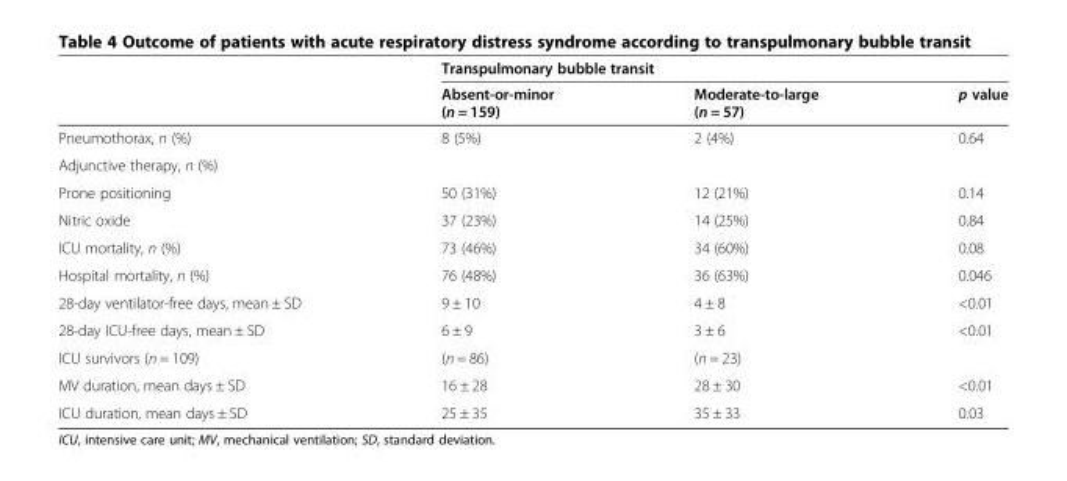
<table><thead><tr><td rowspan="2"></td><td colspan="3">Transpulmonary bubble transit</td></tr><tr><td>Absent-or-minor (n = 159)</td><td>Moderate-to-large (n = 57)</td><td>p value</td></tr></thead><tbody><tr><td>Pneumothorax, n (%)</td><td>8 (5%)</td><td>2 (4%)</td><td>0.64</td></tr><tr><td colspan="4">Adjunctive therapy, n (%)</td></tr><tr><td>Prone positioning</td><td>50 (31%)</td><td>12 (21%)</td><td>0.14</td></tr><tr><td>Nitric oxide</td><td>37 (23%)</td><td>14 (25%)</td><td>0.84</td></tr><tr><td>ICU mortality, n (%)</td><td>73 (46%)</td><td>34 (60%)</td><td>0.08</td></tr><tr><td>Hospital mortality, n (%)</td><td>76 (48%)</td><td>36 (63%)</td><td>0.046</td></tr><tr><td>28-day ventilator-free days, mean ± SD</td><td>9 ± 10</td><td>4 ± 8</td><td>&lt;0.01</td></tr><tr><td>28-day ICU-free days, mean ± SD</td><td>6 ± 9</td><td>3 ± 6</td><td>&lt;0.01</td></tr><tr><td>ICU survivors (n = 109)</td><td>(n = 86)</td><td>(n = 23)</td><td></td></tr><tr><td>MV duration, mean days ± SD</td><td>16 ± 28</td><td>28 ± 30</td><td>&lt;0.01</td></tr><tr><td>ICU duration, mean days ± SD</td><td>25 ± 35</td><td>35 ± 33</td><td>0.03</td></tr></tbody></table>